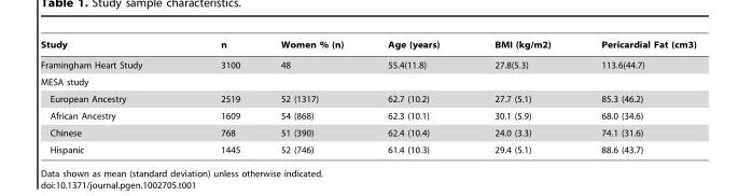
<table><thead><tr><td>Study</td><td>n</td><td>Women % (n)</td><td>Age (years)</td><td>BMI (kg/m2)</td><td>Pericardial Fat (cm3)</td></tr></thead><tbody><tr><td>Framingham Heart Study</td><td>3100</td><td>48</td><td>55.4(11.8)</td><td>27.8(5.3)</td><td>113.6(44.7)</td></tr><tr><td colspan="6">MESA study</td></tr><tr><td>European Ancestry</td><td>2519</td><td>52 (1317)</td><td>62.7 (10.2)</td><td>27.7 (5.1)</td><td>85.3 (46.2)</td></tr><tr><td>African Ancestry</td><td>1609</td><td>54 (868)</td><td>62.3 (10.1)</td><td>30.1 (5.9)</td><td>68.0 (34.6)</td></tr><tr><td>Chinese</td><td>768</td><td>51 (390)</td><td>62.4 (10.4)</td><td>24.0 (3.3)</td><td>74.1 (31.6)</td></tr><tr><td>Hispanic</td><td>1445</td><td>52 (746)</td><td>61.4 (10.3)</td><td>29.4 (5.1)</td><td>88.6 (43.7)</td></tr></tbody></table>